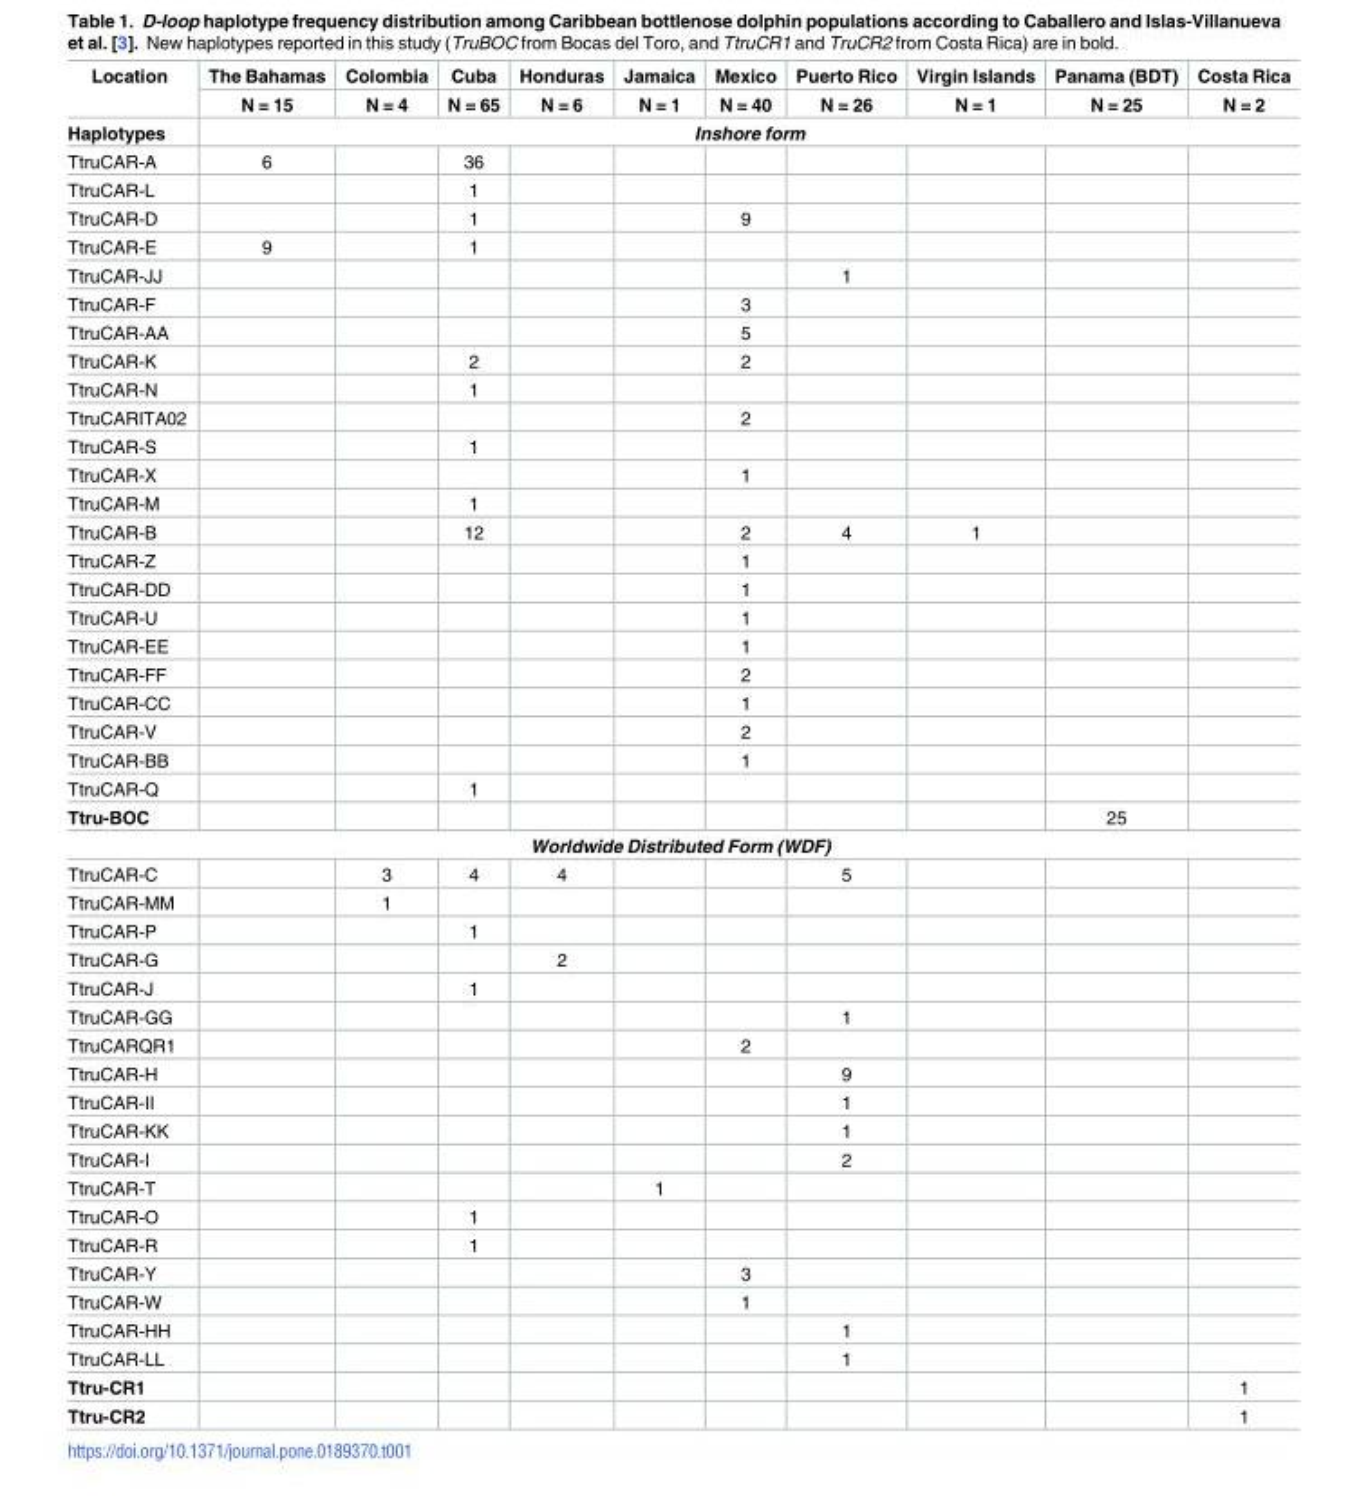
<table><thead><tr><td rowspan="2">Location</td><td rowspan="2">The Bahamas N = 15</td><td rowspan="2">Colombia N = 4</td><td rowspan="2">Cuba N = 65</td><td rowspan="2">Honduras N = 6</td><td rowspan="2">Jamaica N = 1</td><td rowspan="2">Mexico N = 40</td><td rowspan="2">Puerto Rico N = 26</td><td rowspan="2">Virgin Islands N = 1</td><td rowspan="2">Panama (BDT) N = 25</td><td rowspan="2">Costa Rica N = 2</td></tr><tr></tr></thead><tbody><tr><td>Haplotypes</td><td colspan="10">Inshore form</td></tr><tr><td>TtruCAR-A</td><td>6</td><td></td><td>36</td><td></td><td></td><td></td><td></td><td></td><td></td><td></td></tr><tr><td>TtruCAR-L</td><td></td><td></td><td>1</td><td></td><td></td><td></td><td></td><td></td><td></td><td></td></tr><tr><td>TtruCAR-D</td><td></td><td></td><td>1</td><td></td><td></td><td>9</td><td></td><td></td><td></td><td></td></tr><tr><td>TtruCAR-E</td><td>9</td><td></td><td>1</td><td></td><td></td><td></td><td></td><td></td><td></td><td></td></tr><tr><td>TtruCAR-JJ</td><td></td><td></td><td></td><td></td><td></td><td></td><td>1</td><td></td><td></td><td></td></tr><tr><td>TtruCAR-F</td><td></td><td></td><td></td><td></td><td></td><td>3</td><td></td><td></td><td></td><td></td></tr><tr><td>TtruCAR-AA</td><td></td><td></td><td></td><td></td><td></td><td>5</td><td></td><td></td><td></td><td></td></tr><tr><td>TtruCAR-K</td><td></td><td></td><td>2</td><td></td><td></td><td>2</td><td></td><td></td><td></td><td></td></tr><tr><td>TtruCAR-N</td><td></td><td></td><td>1</td><td></td><td></td><td></td><td></td><td></td><td></td><td></td></tr><tr><td>TtruCARITA02</td><td></td><td></td><td></td><td></td><td></td><td>2</td><td></td><td></td><td></td><td></td></tr><tr><td>TtruCAR-S</td><td></td><td></td><td>1</td><td></td><td></td><td></td><td></td><td></td><td></td><td></td></tr><tr><td>TtruCAR-X</td><td></td><td></td><td></td><td></td><td></td><td>1</td><td></td><td></td><td></td><td></td></tr><tr><td>TtruCAR-M</td><td></td><td></td><td>1</td><td></td><td></td><td></td><td></td><td></td><td></td><td></td></tr><tr><td>TtruCAR-B</td><td></td><td></td><td>12</td><td></td><td></td><td>2</td><td>4</td><td>1</td><td></td><td></td></tr><tr><td>TtruCAR-Z</td><td></td><td></td><td></td><td></td><td></td><td>1</td><td></td><td></td><td></td><td></td></tr><tr><td>TtruCAR-DD</td><td></td><td></td><td></td><td></td><td></td><td>1</td><td></td><td></td><td></td><td></td></tr><tr><td>TtruCAR-U</td><td></td><td></td><td></td><td></td><td></td><td>1</td><td></td><td></td><td></td><td></td></tr><tr><td>TtruCAR-EE</td><td></td><td></td><td></td><td></td><td></td><td>1</td><td></td><td></td><td></td><td></td></tr><tr><td>TtruCAR-FF</td><td></td><td></td><td></td><td></td><td></td><td>2</td><td></td><td></td><td></td><td></td></tr><tr><td>TtruCAR-CC</td><td></td><td></td><td></td><td></td><td></td><td>1</td><td></td><td></td><td></td><td></td></tr><tr><td>TtruCAR-V</td><td></td><td></td><td></td><td></td><td></td><td>2</td><td></td><td></td><td></td><td></td></tr><tr><td>TtruCAR-BB</td><td></td><td></td><td></td><td></td><td></td><td>1</td><td></td><td></td><td></td><td></td></tr><tr><td>TtruCAR-Q</td><td></td><td></td><td>1</td><td></td><td></td><td></td><td></td><td></td><td></td><td></td></tr><tr><td>Ttru-BOC</td><td></td><td></td><td></td><td></td><td></td><td></td><td></td><td></td><td>25</td><td></td></tr><tr><td colspan="11">Worldwide Distributed Form (WDF)</td></tr><tr><td>TtruCAR-C</td><td></td><td>3</td><td>4</td><td>4</td><td></td><td></td><td>5</td><td></td><td></td><td></td></tr><tr><td>TtruCAR-MM</td><td></td><td>1</td><td></td><td></td><td></td><td></td><td></td><td></td><td></td><td></td></tr><tr><td>TtruCAR-P</td><td></td><td></td><td>1</td><td></td><td></td><td></td><td></td><td></td><td></td><td></td></tr><tr><td>TtruCAR-G</td><td></td><td></td><td></td><td>2</td><td></td><td></td><td></td><td></td><td></td><td></td></tr><tr><td>TtruCAR-J</td><td></td><td></td><td>1</td><td></td><td></td><td></td><td></td><td></td><td></td><td></td></tr><tr><td>TtruCAR-GG</td><td></td><td></td><td></td><td></td><td></td><td></td><td>1</td><td></td><td></td><td></td></tr><tr><td>TtruCARQR1</td><td></td><td></td><td></td><td></td><td></td><td>2</td><td></td><td></td><td></td><td></td></tr><tr><td>TtruCAR-H</td><td></td><td></td><td></td><td></td><td></td><td></td><td>9</td><td></td><td></td><td></td></tr><tr><td>TtruCAR-II</td><td></td><td></td><td></td><td></td><td></td><td></td><td>1</td><td></td><td></td><td></td></tr><tr><td>TtruCAR-KK</td><td></td><td></td><td></td><td></td><td></td><td></td><td>1</td><td></td><td></td><td></td></tr><tr><td>TtruCAR-I</td><td></td><td></td><td></td><td></td><td></td><td></td><td>2</td><td></td><td></td><td></td></tr><tr><td>TtruCAR-T</td><td></td><td></td><td></td><td></td><td>1</td><td></td><td></td><td></td><td></td><td></td></tr><tr><td>TtruCAR-O</td><td></td><td></td><td>1</td><td></td><td></td><td></td><td></td><td></td><td></td><td></td></tr><tr><td>TtruCAR-R</td><td></td><td></td><td>1</td><td></td><td></td><td></td><td></td><td></td><td></td><td></td></tr><tr><td>TtruCAR-Y</td><td></td><td></td><td></td><td></td><td></td><td>3</td><td></td><td></td><td></td><td></td></tr><tr><td>TtruCAR-W</td><td></td><td></td><td></td><td></td><td></td><td>1</td><td></td><td></td><td></td><td></td></tr><tr><td>TtruCAR-HH</td><td></td><td></td><td></td><td></td><td></td><td></td><td>1</td><td></td><td></td><td></td></tr><tr><td>TtruCAR-LL</td><td></td><td></td><td></td><td></td><td></td><td></td><td>1</td><td></td><td></td><td></td></tr><tr><td>Ttru-CR1</td><td></td><td></td><td></td><td></td><td></td><td></td><td></td><td></td><td></td><td>1</td></tr><tr><td>Ttru-CR2</td><td></td><td></td><td></td><td></td><td></td><td></td><td></td><td></td><td></td><td>1</td></tr></tbody></table>